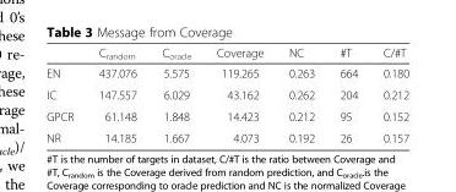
<table><thead><tr><td></td><td>C<sub>random</sub></td><td>C<sub>oracle</sub></td><td>Coverage</td><td>NC</td><td>#T</td><td>C/#T</td></tr></thead><tbody><tr><td>EN</td><td>437.076</td><td>5.575</td><td>119.265</td><td>0.263</td><td>664</td><td>0.180</td></tr><tr><td>IC</td><td>147.557</td><td>6.029</td><td>43.162</td><td>0.262</td><td>204</td><td>0.212</td></tr><tr><td>GPCR</td><td>61.148</td><td>1.848</td><td>14.423</td><td>0.212</td><td>95</td><td>0.152</td></tr><tr><td>NR</td><td>14.185</td><td>1.667</td><td>4.073</td><td>0.192</td><td>26</td><td>0.157</td></tr></tbody></table>